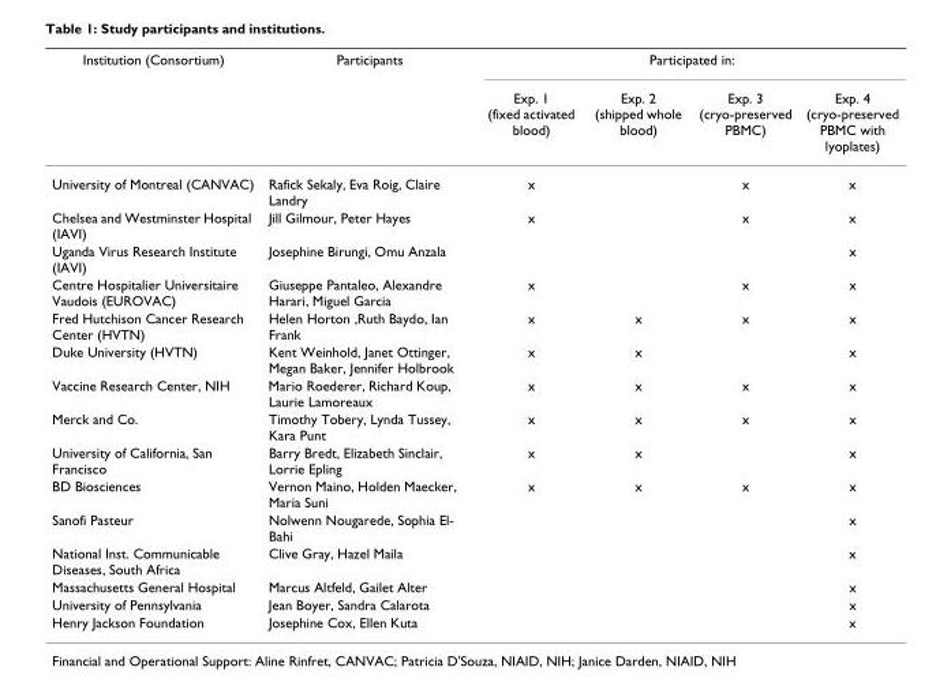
<table><thead><tr><td rowspan="2">Institution (Consortium)</td><td rowspan="2">Participants</td><td colspan="4">Participated in:</td></tr><tr><td>Exp. 1 (fixed activated blood)</td><td>Exp. 2 (shipped whole blood)</td><td>Exp. 3 (cryo-preserved PBMC)</td><td>Exp. 4 (cryo-preserved PBMC with lyoplates)</td></tr></thead><tbody><tr><td>University of Montreal (CANVAC)</td><td>Rafick Sekaly, Eva Roig, Claire Landry</td><td>x</td><td></td><td>x</td><td>x</td></tr><tr><td>Chelsea and Westminster Hospital (IAVI)</td><td>Jill Gilmour, Peter Hayes</td><td>x</td><td></td><td>x</td><td>x</td></tr><tr><td>Uganda Virus Research Institute (IAVI)</td><td>Josephine Birungi, Omu Anzala</td><td></td><td></td><td></td><td>x</td></tr><tr><td>Centre Hospitalier Universitaire Vaudois (EUROVAC)</td><td>Giuseppe Pantaleo, Alexandre Harari, Miguel Garcia</td><td>x</td><td></td><td>x</td><td>x</td></tr><tr><td>Fred Hutchison Cancer Research Center (HVTN)</td><td>Helen Horton ,Ruth Baydo, Ian Frank</td><td>x</td><td>x</td><td>x</td><td>x</td></tr><tr><td>Duke University (HVTN)</td><td>Kent Weinhold, Janet Ottinger, Megan Baker, Jennifer Holbrook</td><td>x</td><td>x</td><td></td><td>x</td></tr><tr><td>Vaccine Research Center, NIH</td><td>Mario Roederer, Richard Koup, Laurie Lamoreaux</td><td>x</td><td>x</td><td>x</td><td>x</td></tr><tr><td>Merck and Co.</td><td>Timothy Tobery, Lynda Tussey, Kara Punt</td><td>x</td><td>x</td><td>x</td><td>x</td></tr><tr><td>University of California, San Francisco</td><td>Barry Bredt, Elizabeth Sinclair, Lorrie Epling</td><td>x</td><td>x</td><td></td><td>x</td></tr><tr><td>BD Biosciences</td><td>Vernon Maino, Holden Maecker, Maria Suni</td><td>x</td><td>x</td><td>x</td><td>x</td></tr><tr><td>Sanofi Pasteur</td><td>Nolwenn Nougarede, Sophia El- Bahi</td><td></td><td></td><td></td><td>x</td></tr><tr><td>National Inst. Communicable Diseases, South Africa</td><td>Clive Gray, Hazel Maila</td><td></td><td></td><td></td><td>x</td></tr><tr><td>Massachusetts General Hospital</td><td>Marcus Altfeld, Gailet Alter</td><td></td><td></td><td></td><td>x</td></tr><tr><td>University of Pennsylvania</td><td>Jean Boyer, Sandra Calarota</td><td></td><td></td><td></td><td>x</td></tr><tr><td>Henry Jackson Foundation</td><td>Josephine Cox, Ellen Kuta</td><td></td><td></td><td></td><td>x</td></tr></tbody></table>